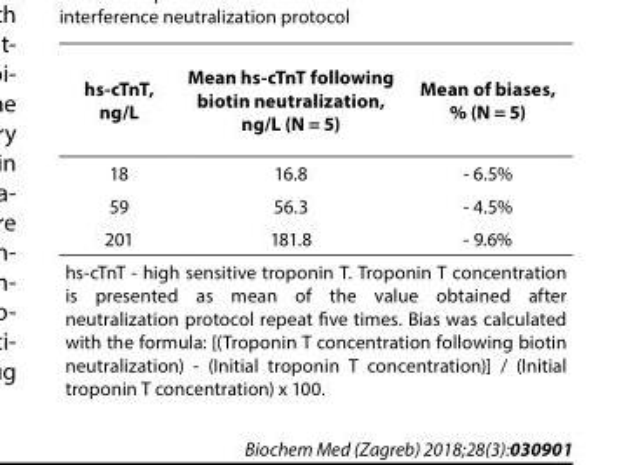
<table><thead><tr><td>hs-cTnT, ng/L</td><td>Mean hs-cTnT following biotin neutralization, ng/L (N = 5)</td><td>Mean of biases, % (N = 5)</td></tr></thead><tbody><tr><td>18</td><td>16.8</td><td>- 6.5%</td></tr><tr><td>59</td><td>56.3</td><td>- 4.5%</td></tr><tr><td>201</td><td>181.8</td><td>- 9.6%</td></tr><tr><td colspan="3">hs-cTnT - high sensitive troponin T. Troponin T concentration is presented as mean of the value obtained after neutralization protocol repeat five times. Bias was calculated with the formula: [(Troponin T concentration following biotin neutralization) - (Initial troponin T concentration)] / (Initial troponin T concentration) x 100.</td></tr></tbody></table>